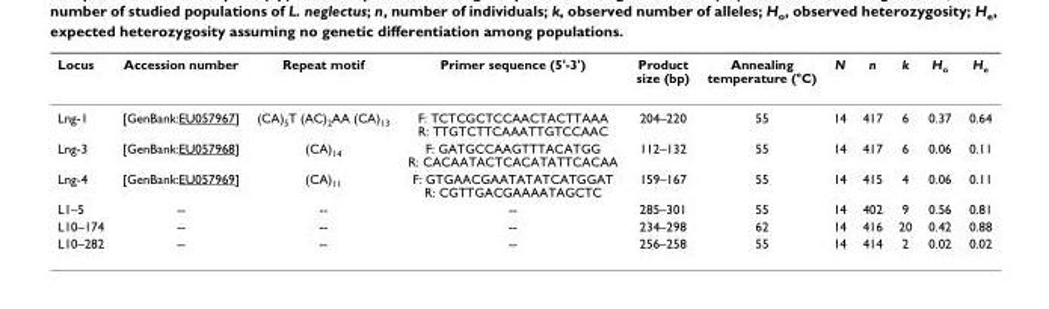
<table><thead><tr><td>Locus</td><td>Accession number</td><td>Repeat motif</td><td>Primer sequence (5&#x27;-3&#x27;)</td><td>Product size (bp)</td><td>Annealing temperature (°C)</td><td>N</td><td>n</td><td>k</td><td>H<sub>o</sub></td><td>H<sub>e</sub></td></tr></thead><tbody><tr><td>Lng-1</td><td>[GenBank:EU057967]</td><td>(CA)<sub>5</sub>T (AC)<sub>2</sub>AA (CA)<sub>13</sub></td><td>F: TCTCGCTCCAACTACTTAAA R: TTGTCTTCAAATTGTCCAAC</td><td>204–220</td><td>55</td><td>14</td><td>417</td><td>6</td><td>0.37</td><td>0.64</td></tr><tr><td>Lng-3</td><td>[GenBank:EU057968]</td><td>(CA)<sub>14</sub></td><td>F: GATGCCAAGTTTACATGG R: CACAATACTCACATATTCACAA</td><td>112–132</td><td>55</td><td>14</td><td>417</td><td>6</td><td>0.06</td><td>0.11</td></tr><tr><td>Lng-4</td><td>[GenBank:EU057969]</td><td>(CA)<sub>11</sub></td><td>F: GTGAACGAATATATCATGGAT R: CGTTGACGAAAATAGCTC</td><td>159–167</td><td>55</td><td>14</td><td>415</td><td>4</td><td>0.06</td><td>0.11</td></tr><tr><td>L1–5</td><td>--</td><td>--</td><td>--</td><td>285–301</td><td>55</td><td>14</td><td>402</td><td>9</td><td>0.56</td><td>0.81</td></tr><tr><td>L10–174</td><td>--</td><td>--</td><td>--</td><td>234–298</td><td>62</td><td>14</td><td>416</td><td>20</td><td>0.42</td><td>0.88</td></tr><tr><td>L10–282</td><td>--</td><td>--</td><td>--</td><td>256–258</td><td>55</td><td>14</td><td>414</td><td>2</td><td>0.02</td><td>0.02</td></tr></tbody></table>